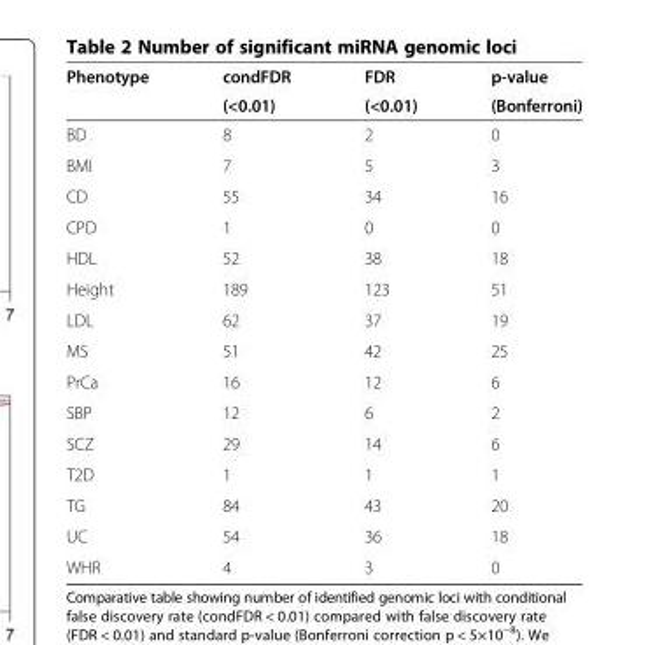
<table><thead><tr><td rowspan="2">Phenotype</td><td rowspan="2">condFDR (&lt;0.01)</td><td rowspan="2">FDR (&lt;0.01)</td><td rowspan="2">p-value (Bonferroni)</td></tr><tr></tr></thead><tbody><tr><td>BD</td><td>8</td><td>2</td><td>0</td></tr><tr><td>BMI</td><td>7</td><td>5</td><td>3</td></tr><tr><td>CD</td><td>55</td><td>34</td><td>16</td></tr><tr><td>CPD</td><td>1</td><td>0</td><td>0</td></tr><tr><td>HDL</td><td>52</td><td>38</td><td>18</td></tr><tr><td>Height</td><td>189</td><td>123</td><td>51</td></tr><tr><td>LDL</td><td>62</td><td>37</td><td>19</td></tr><tr><td>MS</td><td>51</td><td>42</td><td>25</td></tr><tr><td>PrCa</td><td>16</td><td>12</td><td>6</td></tr><tr><td>SBP</td><td>12</td><td>6</td><td>2</td></tr><tr><td>SCZ</td><td>29</td><td>14</td><td>6</td></tr><tr><td>T2D</td><td>1</td><td>1</td><td>1</td></tr><tr><td>TG</td><td>84</td><td>43</td><td>20</td></tr><tr><td>UC</td><td>54</td><td>36</td><td>18</td></tr><tr><td>WHR</td><td>4</td><td>3</td><td>0</td></tr></tbody></table>